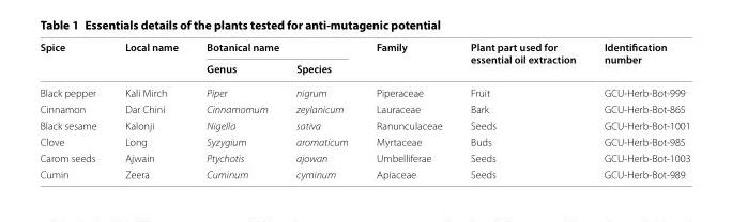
<table><thead><tr><td rowspan="2">Spice</td><td rowspan="2">Local name</td><td colspan="2">Botanical name</td><td rowspan="2">Family</td><td rowspan="2">Plant part used for essential oil extraction</td><td rowspan="2">Identification number</td></tr><tr><td>Genus</td><td>Species</td></tr></thead><tbody><tr><td>Black pepper</td><td>Kali Mirch</td><td>Piper</td><td>nigrum</td><td>Piperaceae</td><td>Fruit</td><td>GCU-Herb-Bot-999</td></tr><tr><td>Cinnamon</td><td>Dar Chini</td><td>Cinnamomum</td><td>zeylanicum</td><td>Lauraceae</td><td>Bark</td><td>GCU-Herb-Bot-865</td></tr><tr><td>Black sesame</td><td>Kalonji</td><td>Nigella</td><td>sativa</td><td>Ranunculaceae</td><td>Seeds</td><td>GCU-Herb-Bot-1001</td></tr><tr><td>Clove</td><td>Long</td><td>Syzygium</td><td>aromaticum</td><td>Myrtaceae</td><td>Buds</td><td>GCU-Herb-Bot-985</td></tr><tr><td>Carom seeds</td><td>Ajwain</td><td>Ptychotis</td><td>ajowan</td><td>Umbelliferae</td><td>Seeds</td><td>GCU-Herb-Bot-1003</td></tr><tr><td>Cumin</td><td>Zeera</td><td>Cuminum</td><td>cyminum</td><td>Apiaceae</td><td>Seeds</td><td>GCU-Herb-Bot-989</td></tr></tbody></table>